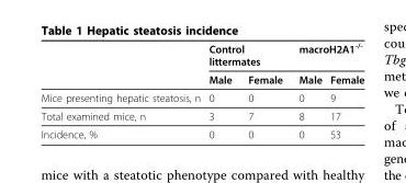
<table><thead><tr><td rowspan="2"></td><td colspan="2">Control littermates</td><td colspan="2">macroH2A1<sup>-/-</sup></td></tr><tr><td>Male</td><td>Female</td><td>Male</td><td>Female</td></tr></thead><tbody><tr><td>Mice presenting hepatic steatosis, n</td><td>0</td><td>0</td><td>0</td><td>9</td></tr><tr><td>Total examined mice, n</td><td>3</td><td>7</td><td>8</td><td>17</td></tr><tr><td>Incidence, %</td><td>0</td><td>0</td><td>0</td><td>53</td></tr></tbody></table>